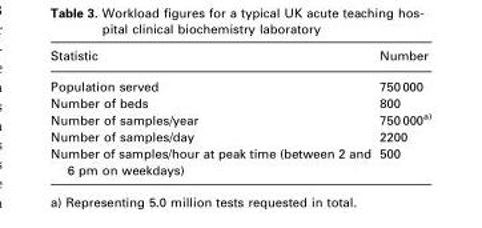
<table><thead><tr><td>Statistic</td><td>Number</td></tr></thead><tbody><tr><td>Population served</td><td>750 000</td></tr><tr><td>Number of beds</td><td>800</td></tr><tr><td>Number of samples/year</td><td>750 000a)</td></tr><tr><td>Number of samples/day</td><td>2200</td></tr><tr><td>Number of samples/hour at peak time (between 2 and 6 pm on weekdays)</td><td>500</td></tr></tbody></table>